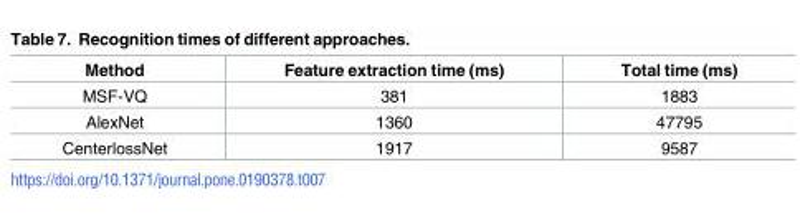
<table><thead><tr><td>Method</td><td>Feature extraction time (ms)</td><td>Total time (ms)</td></tr></thead><tbody><tr><td>MSF-VQ</td><td>381</td><td>1883</td></tr><tr><td>AlexNet</td><td>1360</td><td>47795</td></tr><tr><td>CenterlossNet</td><td>1917</td><td>9587</td></tr></tbody></table>